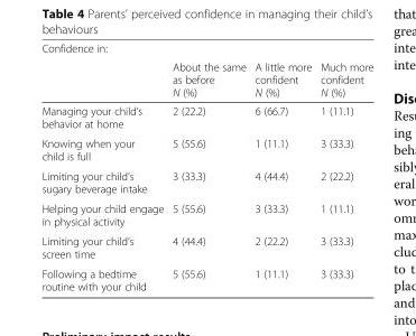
<table><thead><tr><td rowspan="2">Confidence in:</td><td rowspan="2">About the same as before N (%)</td><td rowspan="2">A little more confident N (%)</td><td rowspan="2">Much more confident N (%)</td></tr><tr></tr></thead><tbody><tr><td>Managing your child’s behavior at home</td><td>2 (22.2)</td><td>6 (66.7)</td><td>1 (11.1)</td></tr><tr><td>Knowing when your child is full</td><td>5 (55.6)</td><td>1 (11.1)</td><td>3 (33.3)</td></tr><tr><td>Limiting your child’s sugary beverage intake</td><td>3 (33.3)</td><td>4 (44.4)</td><td>2 (22.2)</td></tr><tr><td>Helping your child engage in physical activity</td><td>5 (55.6)</td><td>3 (33.3)</td><td>1 (11.1)</td></tr><tr><td>Limiting your child’s screen time</td><td>4 (44.4)</td><td>2 (22.2)</td><td>3 (33.3)</td></tr><tr><td>Following a bedtime routine with your child</td><td>5 (55.6)</td><td>1 (11.1)</td><td>3 (33.3)</td></tr></tbody></table>